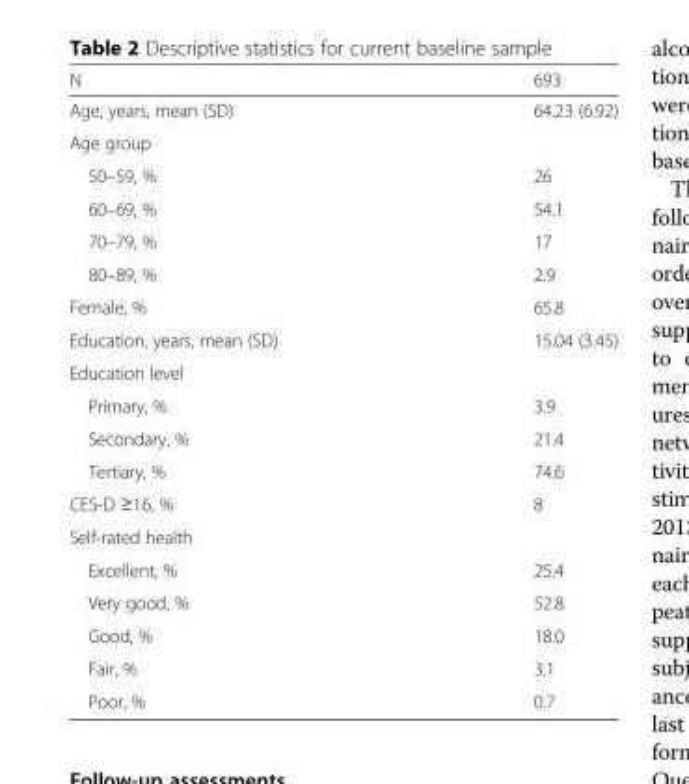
<table><thead><tr><td>N</td><td>693</td></tr></thead><tbody><tr><td>Age, years, mean (SD)</td><td>64.23 (6.92)</td></tr><tr><td colspan="2">Age group</td></tr><tr><td>50–59, %</td><td>26</td></tr><tr><td>60–69, %</td><td>54.1</td></tr><tr><td>70–79, %</td><td>17</td></tr><tr><td>80–89, %</td><td>2.9</td></tr><tr><td>Female, %</td><td>65.8</td></tr><tr><td>Education, years, mean (SD)</td><td>15.04 (3.45)</td></tr><tr><td colspan="2">Education level</td></tr><tr><td>Primary, %</td><td>3.9</td></tr><tr><td>Secondary, %</td><td>21.4</td></tr><tr><td>Tertiary, %</td><td>74.6</td></tr><tr><td>CES-D ≥16, %</td><td>8</td></tr><tr><td colspan="2">Self-rated health</td></tr><tr><td>Excellent, %</td><td>25.4</td></tr><tr><td>Very good, %</td><td>52.8</td></tr><tr><td>Good, %</td><td>18.0</td></tr><tr><td>Fair, %</td><td>3.1</td></tr><tr><td>Poor, %</td><td>0.7</td></tr></tbody></table>